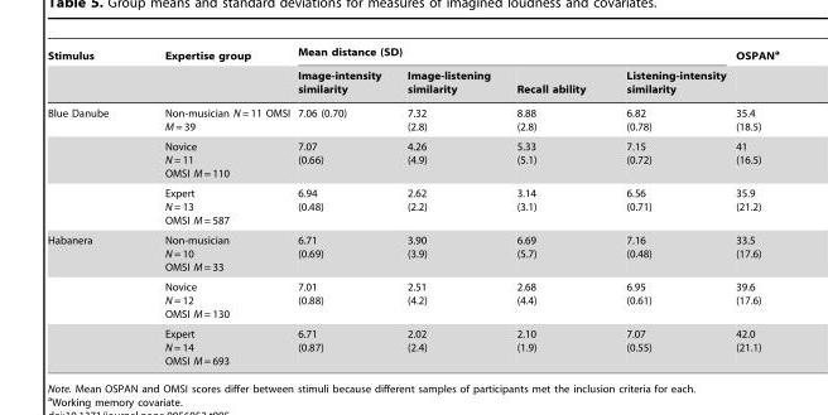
<table><thead><tr><td rowspan="2">Stimulus</td><td rowspan="2">Expertise group</td><td colspan="4">Mean distance (SD)</td><td rowspan="2">OSPAN<sup>a</sup></td></tr><tr><td>Image-intensity similarity</td><td>Image-listening similarity</td><td>Recall ability</td><td>Listening-intensity similarity</td></tr></thead><tbody><tr><td rowspan="3">Blue Danube</td><td>Non-musician N = 11 OMSI M = 39</td><td>7.06 (0.70)</td><td>7.32 (2.8)</td><td>8.88 (2.8)</td><td>6.82 (0.78)</td><td>35.4 (18.5)</td></tr><tr><td>Novice N = 11 OMSI M = 110</td><td>7.07 (0.66)</td><td>4.26 (4.9)</td><td>5.33 (5.1)</td><td>7.15 (0.72)</td><td>41 (16.5)</td></tr><tr><td>Expert N = 13 OMSI M = 587</td><td>6.94 (0.48)</td><td>2.62 (2.2)</td><td>3.14 (3.1)</td><td>6.56 (0.71)</td><td>35.9 (21.2)</td></tr><tr><td rowspan="3">Habanera</td><td>Non-musician N = 10 OMSI M = 33</td><td>6.71 (0.69)</td><td>3.90 (3.9)</td><td>6.69 (5.7)</td><td>7.16 (0.48)</td><td>33.5 (17.6)</td></tr><tr><td>Novice N = 12 OMSI M = 130</td><td>7.01 (0.88)</td><td>2.51 (4.2)</td><td>2.68 (4.4)</td><td>6.95 (0.61)</td><td>39.6 (17.6)</td></tr><tr><td>Expert N = 14 OMSI M = 693</td><td>6.71 (0.87)</td><td>2.02 (2.4)</td><td>2.10 (1.9)</td><td>7.07 (0.55)</td><td>42.0 (21.1)</td></tr></tbody></table>